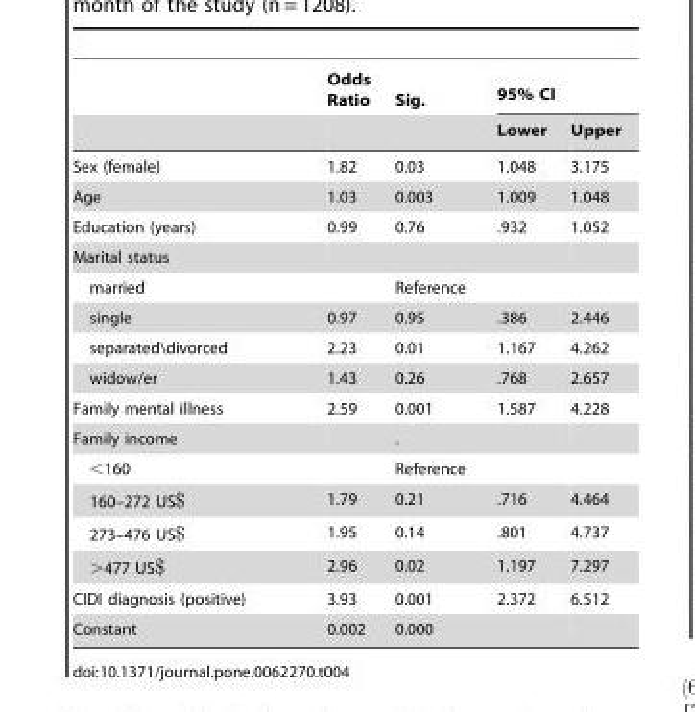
<table><thead><tr><td rowspan="2"></td><td rowspan="2">Odds Ratio</td><td rowspan="2">Sig.</td><td colspan="2">95% CI</td></tr><tr><td>Lower</td><td>Upper</td></tr></thead><tbody><tr><td>Sex (female)</td><td>1.82</td><td>0.03</td><td>1.048</td><td>3.175</td></tr><tr><td>Age</td><td>1.03</td><td>0.003</td><td>1.009</td><td>1.048</td></tr><tr><td>Education (years)</td><td>0.99</td><td>0.76</td><td>.932</td><td>1.052</td></tr><tr><td colspan="5">Marital status</td></tr><tr><td>married</td><td></td><td>Reference</td><td></td><td></td></tr><tr><td>single</td><td>0.97</td><td>0.95</td><td>.386</td><td>2.446</td></tr><tr><td>separated\divorced</td><td>2.23</td><td>0.01</td><td>1.167</td><td>4.262</td></tr><tr><td>widow/er</td><td>1.43</td><td>0.26</td><td>.768</td><td>2.657</td></tr><tr><td>Family mental illness</td><td>2.59</td><td>0.001</td><td>1.587</td><td>4.228</td></tr><tr><td>Family income</td><td></td><td>.</td><td></td><td></td></tr><tr><td>&lt;160</td><td></td><td>Reference</td><td></td><td></td></tr><tr><td>160–272 US$</td><td>1.79</td><td>0.21</td><td>.716</td><td>4.464</td></tr><tr><td>273–476 US$</td><td>1.95</td><td>0.14</td><td>.801</td><td>4.737</td></tr><tr><td>&gt;477 US$</td><td>2.96</td><td>0.02</td><td>1.197</td><td>7.297</td></tr><tr><td>CIDI diagnosis (positive)</td><td>3.93</td><td>0.001</td><td>2.372</td><td>6.512</td></tr><tr><td>Constant</td><td>0.002</td><td>0.000</td><td></td><td></td></tr></tbody></table>